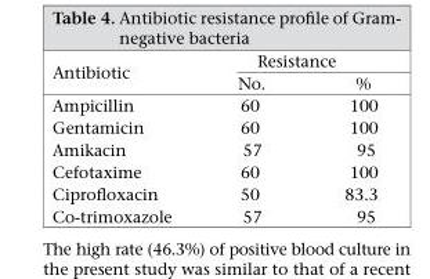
<table><thead><tr><td rowspan="2">Antibiotic</td><td colspan="2">Resistance</td></tr><tr><td>No.</td><td>%</td></tr></thead><tbody><tr><td>Ampicillin</td><td>60</td><td>100</td></tr><tr><td>Gentamicin</td><td>60</td><td>100</td></tr><tr><td>Amikacin</td><td>57</td><td>95</td></tr><tr><td>Cefotaxime</td><td>60</td><td>100</td></tr><tr><td>Ciprofloxacin</td><td>50</td><td>83.3</td></tr><tr><td>Co-trimoxazole</td><td>57</td><td>95</td></tr></tbody></table>